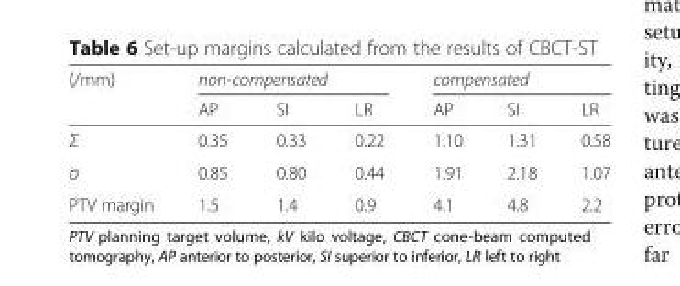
<table><thead><tr><td rowspan="2">(/mm)</td><td colspan="3">non-compensated</td><td colspan="3">compensated</td></tr><tr><td>AP</td><td>SI</td><td>LR</td><td>AP</td><td>SI</td><td>LR</td></tr></thead><tbody><tr><td>Σ</td><td>0.35</td><td>0.33</td><td>0.22</td><td>1.10</td><td>1.31</td><td>0.58</td></tr><tr><td>σ</td><td>0.85</td><td>0.80</td><td>0.44</td><td>1.91</td><td>2.18</td><td>1.07</td></tr><tr><td>PTV margin</td><td>1.5</td><td>1.4</td><td>0.9</td><td>4.1</td><td>4.8</td><td>2.2</td></tr></tbody></table>